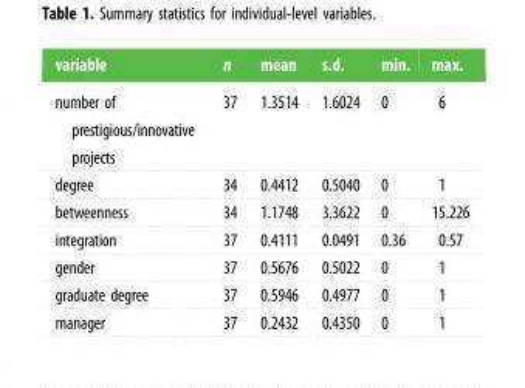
<table><thead><tr><td>variable</td><td>n</td><td>mean</td><td>s.d.</td><td>min.</td><td>max.</td></tr></thead><tbody><tr><td>number of prestigious/innovative projects</td><td>37</td><td>1.3514</td><td>1.6024</td><td>0</td><td>6</td></tr><tr><td>degree</td><td>34</td><td>0.4412</td><td>0.5040</td><td>0</td><td>1</td></tr><tr><td>betweenness</td><td>34</td><td>1.1748</td><td>3.3622</td><td>0</td><td>15.226</td></tr><tr><td>integration</td><td>37</td><td>0.4111</td><td>0.0491</td><td>0.36</td><td>0.57</td></tr><tr><td>gender</td><td>37</td><td>0.5676</td><td>0.5022</td><td>0</td><td>1</td></tr><tr><td>graduate degree</td><td>37</td><td>0.5946</td><td>0.4977</td><td>0</td><td>1</td></tr><tr><td>manager</td><td>37</td><td>0.2432</td><td>0.4350</td><td>0</td><td>1</td></tr></tbody></table>